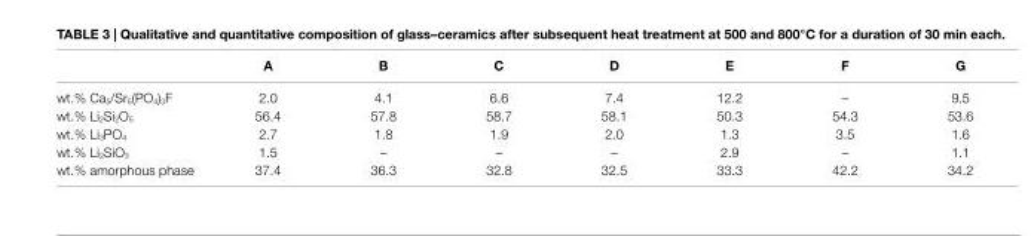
<table><thead><tr><td></td><td>a</td><td>B</td><td>c</td><td>D</td><td>e</td><td>F</td><td>g</td></tr></thead><tbody><tr><td>wt.% Ca<sub>5</sub>/Sr<sub>5</sub>(PO<sub>4</sub>)<sub>3</sub>F</td><td>2.0</td><td>4.1</td><td>6.6</td><td>7.4</td><td>12.2</td><td>–</td><td>9.5</td></tr><tr><td>wt.% Li<sub>2</sub>Si<sub>2</sub>O<sub>5</sub></td><td>56.4</td><td>57.8</td><td>58.7</td><td>58.1</td><td>50.3</td><td>54.3</td><td>53.6</td></tr><tr><td>wt.% Li<sub>3</sub>PO<sub>4</sub></td><td>2.7</td><td>1.8</td><td>1.9</td><td>2.0</td><td>1.3</td><td>3.5</td><td>1.6</td></tr><tr><td>wt.% Li<sub>2</sub>SiO<sub>3</sub></td><td>1.5</td><td>–</td><td>–</td><td>–</td><td>2.9</td><td>–</td><td>1.1</td></tr><tr><td>wt.% amorphous phase</td><td>37.4</td><td>36.3</td><td>32.8</td><td>32.5</td><td>33.3</td><td>42.2</td><td>34.2</td></tr></tbody></table>